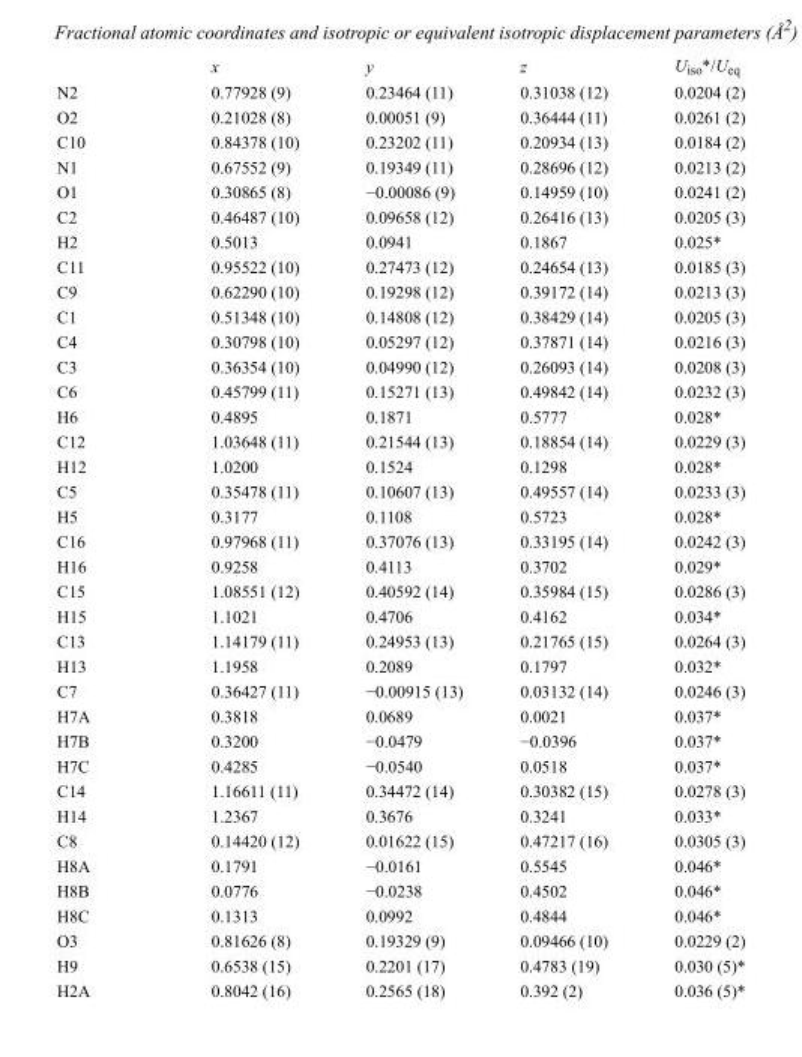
<table><thead><tr><td></td><td>x</td><td>y</td><td>z</td><td>U<sub>iso</sub>*/U<sub>eq</sub></td></tr></thead><tbody><tr><td>N2</td><td>0.77928 (9)</td><td>0.23464 (11)</td><td>0.31038 (12)</td><td>0.0204 (2)</td></tr><tr><td>O2</td><td>0.21028 (8)</td><td>0.00051 (9)</td><td>0.36444 (11)</td><td>0.0261 (2)</td></tr><tr><td>C10</td><td>0.84378 (10)</td><td>0.23202 (11)</td><td>0.20934 (13)</td><td>0.0184 (2)</td></tr><tr><td>N1</td><td>0.67552 (9)</td><td>0.19349 (11)</td><td>0.28696 (12)</td><td>0.0213 (2)</td></tr><tr><td>O1</td><td>0.30865 (8)</td><td>−0.00086 (9)</td><td>0.14959 (10)</td><td>0.0241 (2)</td></tr><tr><td>C2</td><td>0.46487 (10)</td><td>0.09658 (12)</td><td>0.26416 (13)</td><td>0.0205 (3)</td></tr><tr><td>H2</td><td>0.5013</td><td>0.0941</td><td>0.1867</td><td>0.025*</td></tr><tr><td>C11</td><td>0.95522 (10)</td><td>0.27473 (12)</td><td>0.24654 (13)</td><td>0.0185 (3)</td></tr><tr><td>C9</td><td>0.62290 (10)</td><td>0.19298 (12)</td><td>0.39172 (14)</td><td>0.0213 (3)</td></tr><tr><td>C1</td><td>0.51348 (10)</td><td>0.14808 (12)</td><td>0.38429 (14)</td><td>0.0205 (3)</td></tr><tr><td>C4</td><td>0.30798 (10)</td><td>0.05297 (12)</td><td>0.37871 (14)</td><td>0.0216 (3)</td></tr><tr><td>C3</td><td>0.36354 (10)</td><td>0.04990 (12)</td><td>0.26093 (14)</td><td>0.0208 (3)</td></tr><tr><td>C6</td><td>0.45799 (11)</td><td>0.15271 (13)</td><td>0.49842 (14)</td><td>0.0232 (3)</td></tr><tr><td>H6</td><td>0.4895</td><td>0.1871</td><td>0.5777</td><td>0.028*</td></tr><tr><td>C12</td><td>1.03648 (11)</td><td>0.21544 (13)</td><td>0.18854 (14)</td><td>0.0229 (3)</td></tr><tr><td>H12</td><td>1.0200</td><td>0.1524</td><td>0.1298</td><td>0.028*</td></tr><tr><td>C5</td><td>0.35478 (11)</td><td>0.10607 (13)</td><td>0.49557 (14)</td><td>0.0233 (3)</td></tr><tr><td>H5</td><td>0.3177</td><td>0.1108</td><td>0.5723</td><td>0.028*</td></tr><tr><td>C16</td><td>0.97968 (11)</td><td>0.37076 (13)</td><td>0.33195 (14)</td><td>0.0242 (3)</td></tr><tr><td>H16</td><td>0.9258</td><td>0.4113</td><td>0.3702</td><td>0.029*</td></tr><tr><td>C15</td><td>1.08551 (12)</td><td>0.40592 (14)</td><td>0.35984 (15)</td><td>0.0286 (3)</td></tr><tr><td>H15</td><td>1.1021</td><td>0.4706</td><td>0.4162</td><td>0.034*</td></tr><tr><td>C13</td><td>1.14179 (11)</td><td>0.24953 (13)</td><td>0.21765 (15)</td><td>0.0264 (3)</td></tr><tr><td>H13</td><td>1.1958</td><td>0.2089</td><td>0.1797</td><td>0.032*</td></tr><tr><td>C7</td><td>0.36427 (11)</td><td>−0.00915 (13)</td><td>0.03132 (14)</td><td>0.0246 (3)</td></tr><tr><td>H7A</td><td>0.3818</td><td>0.0689</td><td>0.0021</td><td>0.037*</td></tr><tr><td>H7B</td><td>0.3200</td><td>−0.0479</td><td>−0.0396</td><td>0.037*</td></tr><tr><td>H7C</td><td>0.4285</td><td>−0.0540</td><td>0.0518</td><td>0.037*</td></tr><tr><td>C14</td><td>1.16611 (11)</td><td>0.34472 (14)</td><td>0.30382 (15)</td><td>0.0278 (3)</td></tr><tr><td>H14</td><td>1.2367</td><td>0.3676</td><td>0.3241</td><td>0.033*</td></tr><tr><td>C8</td><td>0.14420 (12)</td><td>0.01622 (15)</td><td>0.47217 (16)</td><td>0.0305 (3)</td></tr><tr><td>H8A</td><td>0.1791</td><td>−0.0161</td><td>0.5545</td><td>0.046*</td></tr><tr><td>H8B</td><td>0.0776</td><td>−0.0238</td><td>0.4502</td><td>0.046*</td></tr><tr><td>H8C</td><td>0.1313</td><td>0.0992</td><td>0.4844</td><td>0.046*</td></tr><tr><td>O3</td><td>0.81626 (8)</td><td>0.19329 (9)</td><td>0.09466 (10)</td><td>0.0229 (2)</td></tr><tr><td>H9</td><td>0.6538 (15)</td><td>0.2201 (17)</td><td>0.4783 (19)</td><td>0.030 (5)*</td></tr><tr><td>H2A</td><td>0.8042 (16)</td><td>0.2565 (18)</td><td>0.392 (2)</td><td>0.036 (5)*</td></tr></tbody></table>